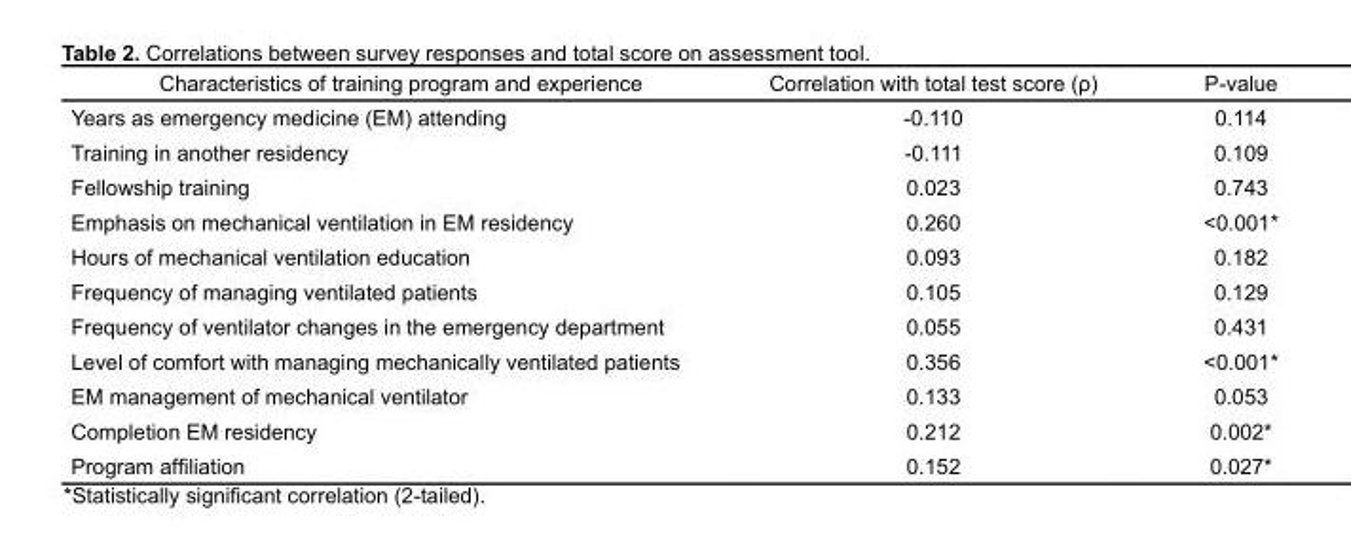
<table><thead><tr><td>Characteristics of training program and experience</td><td>Correlation with total test score (ρ)</td><td>P-value</td></tr></thead><tbody><tr><td>Years as emergency medicine (EM) attending</td><td>-0.110</td><td>0.114</td></tr><tr><td>Training in another residency</td><td>-0.111</td><td>0.109</td></tr><tr><td>Fellowship training</td><td>0.023</td><td>0.743</td></tr><tr><td>Emphasis on mechanical ventilation in EM residency</td><td>0.260</td><td>&lt;0.001*</td></tr><tr><td>Hours of mechanical ventilation education</td><td>0.093</td><td>0.182</td></tr><tr><td>Frequency of managing ventilated patients</td><td>0.105</td><td>0.129</td></tr><tr><td>Frequency of ventilator changes in the emergency department</td><td>0.055</td><td>0.431</td></tr><tr><td>Level of comfort with managing mechanically ventilated patients</td><td>0.356</td><td>&lt;0.001*</td></tr><tr><td>EM management of mechanical ventilator</td><td>0.133</td><td>0.053</td></tr><tr><td>Completion EM residency</td><td>0.212</td><td>0.002*</td></tr><tr><td>Program affiliation</td><td>0.152</td><td>0.027*</td></tr></tbody></table>